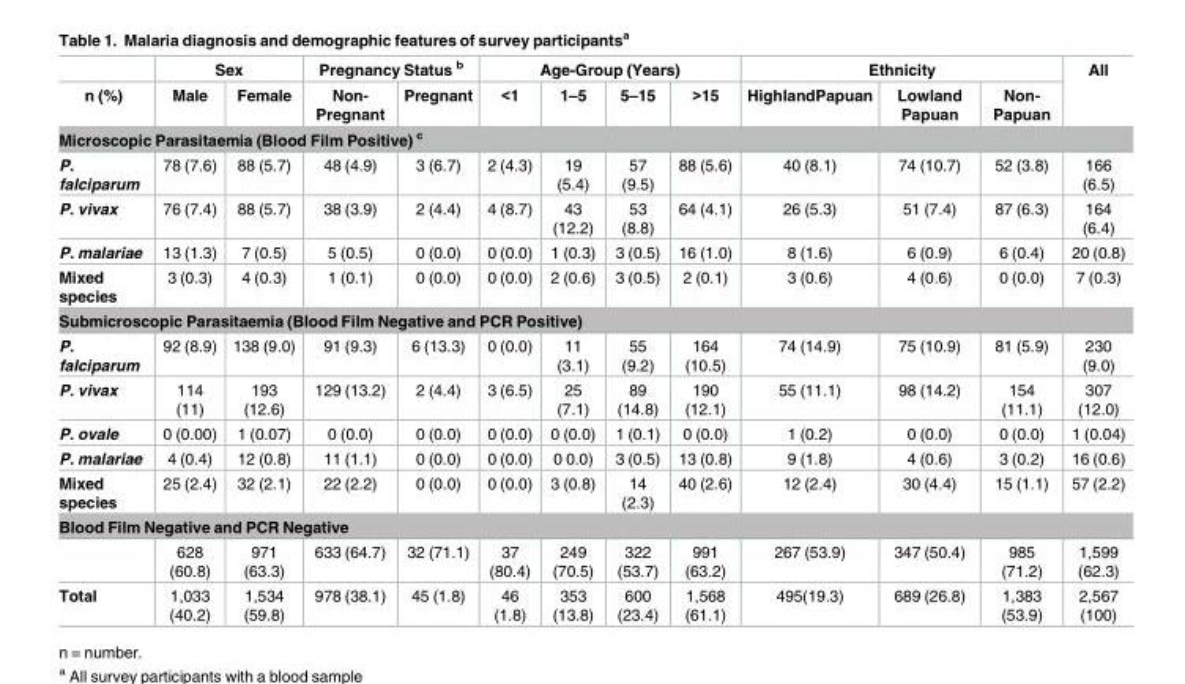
<table><thead><tr><td rowspan="2">n (%)</td><td colspan="2">Sex</td><td colspan="2">Pregnancy Status <sup>b</sup></td><td colspan="4">Age-Group (Years)</td><td colspan="3">Ethnicity</td><td rowspan="2">All</td></tr><tr><td>Male</td><td>Female</td><td>Non- Pregnant</td><td>Pregnant</td><td>&lt;1</td><td>1–5</td><td>5–15</td><td>&gt;15</td><td>HighlandPapuan</td><td>Lowland Papuan</td><td>Non- Papuan</td></tr></thead><tbody><tr><td colspan="13">Microscopic Parasitaemia (Blood Film Positive) <sup>c</sup></td></tr><tr><td>P. falciparum</td><td>78 (7.6)</td><td>88 (5.7)</td><td>48 (4.9)</td><td>3 (6.7)</td><td>2 (4.3)</td><td>19 (5.4)</td><td>57 (9.5)</td><td>88 (5.6)</td><td>40 (8.1)</td><td>74 (10.7)</td><td>52 (3.8)</td><td>166 (6.5)</td></tr><tr><td>P. vivax</td><td>76 (7.4)</td><td>88 (5.7)</td><td>38 (3.9)</td><td>2 (4.4)</td><td>4 (8.7)</td><td>43 (12.2)</td><td>53 (8.8)</td><td>64 (4.1)</td><td>26 (5.3)</td><td>51 (7.4)</td><td>87 (6.3)</td><td>164 (6.4)</td></tr><tr><td>P. malariae</td><td>13 (1.3)</td><td>7 (0.5)</td><td>5 (0.5)</td><td>0 (0.0)</td><td>0 (0.0)</td><td>1 (0.3)</td><td>3 (0.5)</td><td>16 (1.0)</td><td>8 (1.6)</td><td>6 (0.9)</td><td>6 (0.4)</td><td>20 (0.8)</td></tr><tr><td>Mixed species</td><td>3 (0.3)</td><td>4 (0.3)</td><td>1 (0.1)</td><td>0 (0.0)</td><td>0 (0.0)</td><td>2 (0.6)</td><td>3 (0.5)</td><td>2 (0.1)</td><td>3 (0.6)</td><td>4 (0.6)</td><td>0 (0.0)</td><td>7 (0.3)</td></tr><tr><td colspan="13">Submicroscopic Parasitaemia (Blood Film Negative and PCR Positive)</td></tr><tr><td>P. falciparum</td><td>92 (8.9)</td><td>138 (9.0)</td><td>91 (9.3)</td><td>6 (13.3)</td><td>0 (0.0)</td><td>11 (3.1)</td><td>55 (9.2)</td><td>164 (10.5)</td><td>74 (14.9)</td><td>75 (10.9)</td><td>81 (5.9)</td><td>230 (9.0)</td></tr><tr><td>P. vivax</td><td>114 (11)</td><td>193 (12.6)</td><td>129 (13.2)</td><td>2 (4.4)</td><td>3 (6.5)</td><td>25 (7.1)</td><td>89 (14.8)</td><td>190 (12.1)</td><td>55 (11.1)</td><td>98 (14.2)</td><td>154 (11.1)</td><td>307 (12.0)</td></tr><tr><td>P. ovale</td><td>0 (0.00)</td><td>1 (0.07)</td><td>0 (0.0)</td><td>0 (0.0)</td><td>0 (0.0)</td><td>0 (0.0)</td><td>1 (0.1)</td><td>0 (0.0)</td><td>1 (0.2)</td><td>0 (0.0)</td><td>0 (0.0)</td><td>1 (0.04)</td></tr><tr><td>P. malariae</td><td>4 (0.4)</td><td>12 (0.8)</td><td>11 (1.1)</td><td>0 (0.0)</td><td>0 (0.0)</td><td>0 0.0)</td><td>3 (0.5)</td><td>13 (0.8)</td><td>9 (1.8)</td><td>4 (0.6)</td><td>3 (0.2)</td><td>16 (0.6)</td></tr><tr><td>Mixed species</td><td>25 (2.4)</td><td>32 (2.1)</td><td>22 (2.2)</td><td>0 (0.0)</td><td>0 (0.0)</td><td>3 (0.8)</td><td>14 (2.3)</td><td>40 (2.6)</td><td>12 (2.4)</td><td>30 (4.4)</td><td>15 (1.1)</td><td>57 (2.2)</td></tr><tr><td colspan="13">Blood Film Negative and PCR Negative</td></tr><tr><td></td><td>628 (60.8)</td><td>971 (63.3)</td><td>633 (64.7)</td><td>32 (71.1)</td><td>37 (80.4)</td><td>249 (70.5)</td><td>322 (53.7)</td><td>991 (63.2)</td><td>267 (53.9)</td><td>347 (50.4)</td><td>985 (71.2)</td><td>1,599 (62.3)</td></tr><tr><td>Total</td><td>1,033 (40.2)</td><td>1,534 (59.8)</td><td>978 (38.1)</td><td>45 (1.8)</td><td>46 (1.8)</td><td>353 (13.8)</td><td>600 (23.4)</td><td>1,568 (61.1)</td><td>495(19.3)</td><td>689 (26.8)</td><td>1,383 (53.9)</td><td>2,567 (100)</td></tr></tbody></table>